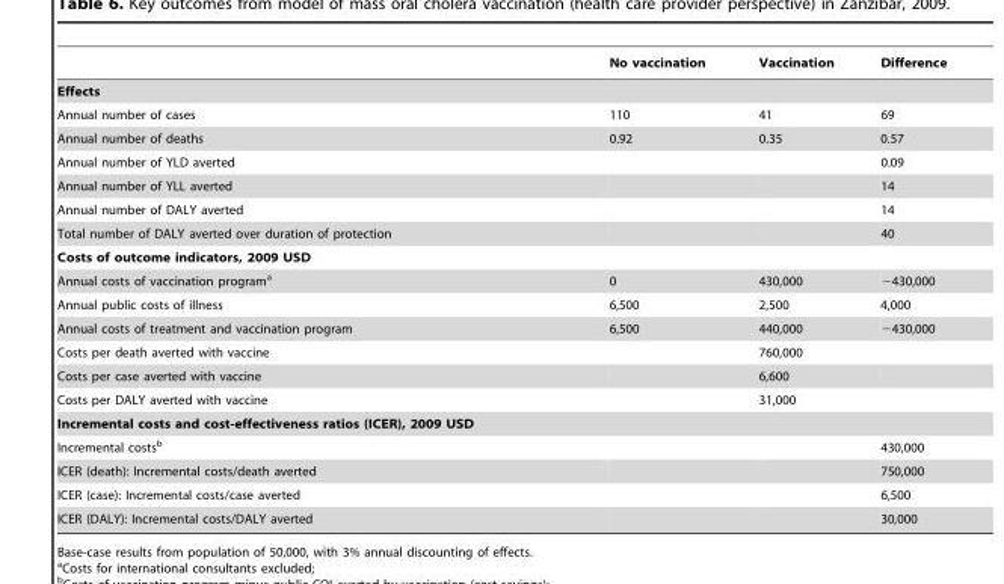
<table><thead><tr><td></td><td>No vaccination</td><td>Vaccination</td><td>Difference</td></tr></thead><tbody><tr><td colspan="4">Effects</td></tr><tr><td>Annual number of cases</td><td>110</td><td>41</td><td>69</td></tr><tr><td>Annual number of deaths</td><td>0.92</td><td>0.35</td><td>0.57</td></tr><tr><td>Annual number of YLD averted</td><td></td><td></td><td>0.09</td></tr><tr><td>Annual number of YLL averted</td><td></td><td></td><td>14</td></tr><tr><td>Annual number of DALY averted</td><td></td><td></td><td>14</td></tr><tr><td>Total number of DALY averted over duration of protection</td><td></td><td></td><td>40</td></tr><tr><td colspan="4">Costs of outcome indicators, 2009 USD</td></tr><tr><td>Annual costs of vaccination program<sup>a</sup></td><td>0</td><td>430,000</td><td>−430,000</td></tr><tr><td>Annual public costs of illness</td><td>6,500</td><td>2,500</td><td>4,000</td></tr><tr><td>Annual costs of treatment and vaccination program</td><td>6,500</td><td>440,000</td><td>−430,000</td></tr><tr><td>Costs per death averted with vaccine</td><td></td><td>760,000</td><td></td></tr><tr><td>Costs per case averted with vaccine</td><td></td><td>6,600</td><td></td></tr><tr><td>Costs per DALY averted with vaccine</td><td></td><td>31,000</td><td></td></tr><tr><td colspan="4">Incremental costs and cost-effectiveness ratios (ICER), 2009 USD</td></tr><tr><td>Incremental costs<sup>b</sup></td><td></td><td></td><td>430,000</td></tr><tr><td>ICER (death): Incremental costs/death averted</td><td></td><td></td><td>750,000</td></tr><tr><td>ICER (case): Incremental costs/case averted</td><td></td><td></td><td>6,500</td></tr><tr><td>ICER (DALY): Incremental costs/DALY averted</td><td></td><td></td><td>30,000</td></tr></tbody></table>